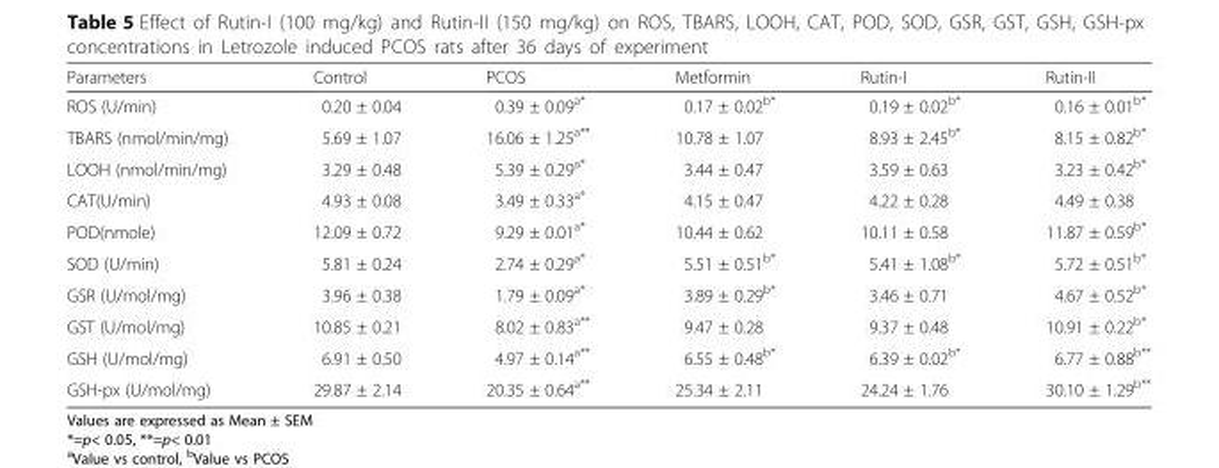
<table><thead><tr><td>Parameters</td><td>Control</td><td>PCOS</td><td>Metformin</td><td>Rutin-I</td><td>Rutin-II</td></tr></thead><tbody><tr><td>ROS (U/min)</td><td>0.20 ± 0.04</td><td>0.39 ± 0.09<sup>a*</sup></td><td>0.17 ± 0.02<sup>b*</sup></td><td>0.19 ± 0.02<sup>b*</sup></td><td>0.16 ± 0.01<sup>b*</sup></td></tr><tr><td>TBARS (nmol/min/mg)</td><td>5.69 ± 1.07</td><td>16.06 ± 1.25<sup>a**</sup></td><td>10.78 ± 1.07</td><td>8.93 ± 2.45<sup>b*</sup></td><td>8.15 ± 0.82<sup>b*</sup></td></tr><tr><td>LOOH (nmol/min/mg)</td><td>3.29 ± 0.48</td><td>5.39 ± 0.29<sup>a*</sup></td><td>3.44 ± 0.47</td><td>3.59 ± 0.63</td><td>3.23 ± 0.42<sup>b*</sup></td></tr><tr><td>CAT(U/min)</td><td>4.93 ± 0.08</td><td>3.49 ± 0.33<sup>a*</sup></td><td>4.15 ± 0.47</td><td>4.22 ± 0.28</td><td>4.49 ± 0.38</td></tr><tr><td>POD(nmole)</td><td>12.09 ± 0.72</td><td>9.29 ± 0.01<sup>a*</sup></td><td>10.44 ± 0.62</td><td>10.11 ± 0.58</td><td>11.87 ± 0.59<sup>b*</sup></td></tr><tr><td>SOD (U/min)</td><td>5.81 ± 0.24</td><td>2.74 ± 0.29<sup>a*</sup></td><td>5.51 ± 0.51<sup>b*</sup></td><td>5.41 ± 1.08<sup>b*</sup></td><td>5.72 ± 0.51<sup>b*</sup></td></tr><tr><td>GSR (U/mol/mg)</td><td>3.96 ± 0.38</td><td>1.79 ± 0.09<sup>a*</sup></td><td>3.89 ± 0.29<sup>b*</sup></td><td>3.46 ± 0.71</td><td>4.67 ± 0.52<sup>b*</sup></td></tr><tr><td>GST (U/mol/mg)</td><td>10.85 ± 0.21</td><td>8.02 ± 0.83<sup>a**</sup></td><td>9.47 ± 0.28</td><td>9.37 ± 0.48</td><td>10.91 ± 0.22<sup>b*</sup></td></tr><tr><td>GSH (U/mol/mg)</td><td>6.91 ± 0.50</td><td>4.97 ± 0.14<sup>a**</sup></td><td>6.55 ± 0.48<sup>b*</sup></td><td>6.39 ± 0.02<sup>b*</sup></td><td>6.77 ± 0.88<sup>b**</sup></td></tr><tr><td>GSH-px (U/mol/mg)</td><td>29.87 ± 2.14</td><td>20.35 ± 0.64<sup>a**</sup></td><td>25.34 ± 2.11</td><td>24.24 ± 1.76</td><td>30.10 ± 1.29<sup>b**</sup></td></tr></tbody></table>